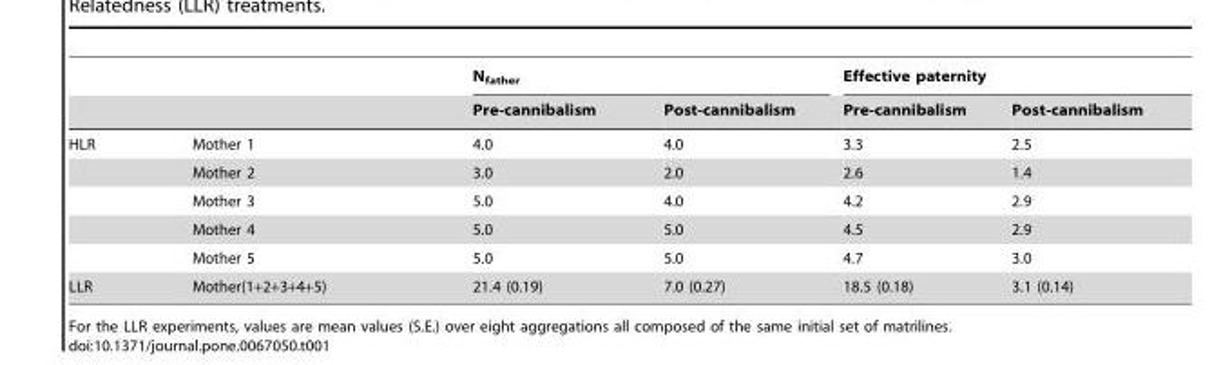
<table><thead><tr><td rowspan="2"></td><td rowspan="2"></td><td colspan="2">N<sub>father</sub></td><td colspan="2">Effective paternity</td></tr><tr><td>Pre-cannibalism</td><td>Post-cannibalism</td><td>Pre-cannibalism</td><td>Post-cannibalism</td></tr></thead><tbody><tr><td rowspan="5">HLR</td><td>Mother 1</td><td>4.0</td><td>4.0</td><td>3.3</td><td>2.5</td></tr><tr><td>Mother 2</td><td>3.0</td><td>2.0</td><td>2.6</td><td>1.4</td></tr><tr><td>Mother 3</td><td>5.0</td><td>4.0</td><td>4.2</td><td>2.9</td></tr><tr><td>Mother 4</td><td>5.0</td><td>5.0</td><td>4.5</td><td>2.9</td></tr><tr><td>Mother 5</td><td>5.0</td><td>5.0</td><td>4.7</td><td>3.0</td></tr><tr><td>LLR</td><td>Mother(1+2+3+4+5)</td><td>21.4 (0.19)</td><td>7.0 (0.27)</td><td>18.5 (0.18)</td><td>3.1 (0.14)</td></tr></tbody></table>